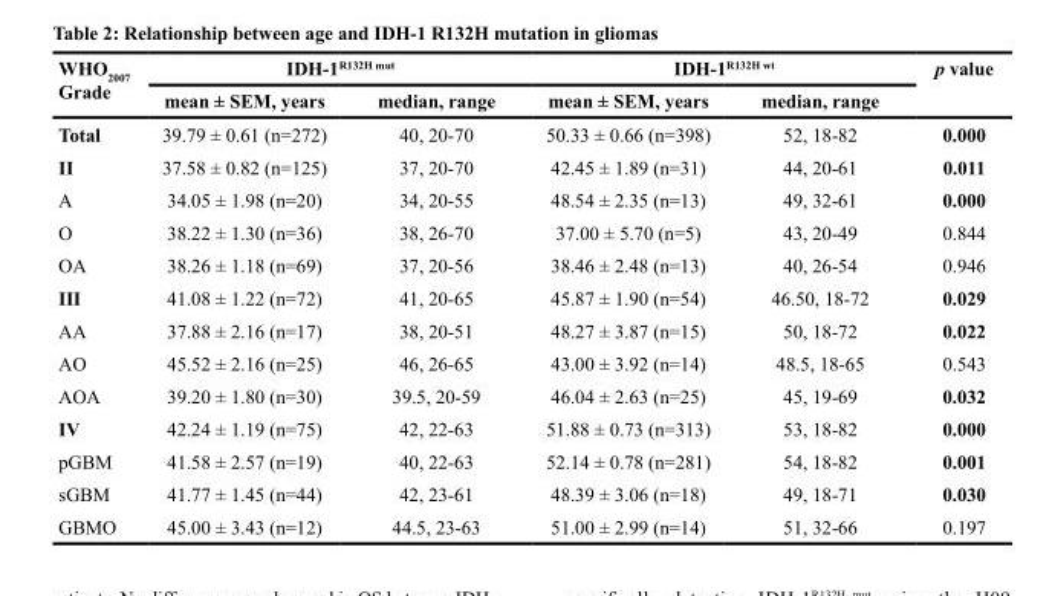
<table><thead><tr><td rowspan="2">WHO<sub>2007</sub> Grade</td><td colspan="2">IDH-1<sup>R132H mut</sup></td><td colspan="2">IDH-1<sup>R132H wt</sup></td><td rowspan="2">p value</td></tr><tr><td>mean ± SEM, years</td><td>median, range</td><td>mean ± SEM, years</td><td>median, range</td></tr></thead><tbody><tr><td>Total</td><td>39.79 ± 0.61 (n=272)</td><td>40, 20-70</td><td>50.33 ± 0.66 (n=398)</td><td>52, 18-82</td><td>0.000</td></tr><tr><td>II</td><td>37.58 ± 0.82 (n=125)</td><td>37, 20-70</td><td>42.45 ± 1.89 (n=31)</td><td>44, 20-61</td><td>0.011</td></tr><tr><td>A</td><td>34.05 ± 1.98 (n=20)</td><td>34, 20-55</td><td>48.54 ± 2.35 (n=13)</td><td>49, 32-61</td><td>0.000</td></tr><tr><td>O</td><td>38.22 ± 1.30 (n=36)</td><td>38, 26-70</td><td>37.00 ± 5.70 (n=5)</td><td>43, 20-49</td><td>0.844</td></tr><tr><td>OA</td><td>38.26 ± 1.18 (n=69)</td><td>37, 20-56</td><td>38.46 ± 2.48 (n=13)</td><td>40, 26-54</td><td>0.946</td></tr><tr><td>III</td><td>41.08 ± 1.22 (n=72)</td><td>41, 20-65</td><td>45.87 ± 1.90 (n=54)</td><td>46.50, 18-72</td><td>0.029</td></tr><tr><td>AA</td><td>37.88 ± 2.16 (n=17)</td><td>38, 20-51</td><td>48.27 ± 3.87 (n=15)</td><td>50, 18-72</td><td>0.022</td></tr><tr><td>AO</td><td>45.52 ± 2.16 (n=25)</td><td>46, 26-65</td><td>43.00 ± 3.92 (n=14)</td><td>48.5, 18-65</td><td>0.543</td></tr><tr><td>AOA</td><td>39.20 ± 1.80 (n=30)</td><td>39.5, 20-59</td><td>46.04 ± 2.63 (n=25)</td><td>45, 19-69</td><td>0.032</td></tr><tr><td>IV</td><td>42.24 ± 1.19 (n=75)</td><td>42, 22-63</td><td>51.88 ± 0.73 (n=313)</td><td>53, 18-82</td><td>0.000</td></tr><tr><td>pGBM</td><td>41.58 ± 2.57 (n=19)</td><td>40, 22-63</td><td>52.14 ± 0.78 (n=281)</td><td>54, 18-82</td><td>0.001</td></tr><tr><td>sGBM</td><td>41.77 ± 1.45 (n=44)</td><td>42, 23-61</td><td>48.39 ± 3.06 (n=18)</td><td>49, 18-71</td><td>0.030</td></tr><tr><td>GBMO</td><td>45.00 ± 3.43 (n=12)</td><td>44.5, 23-63</td><td>51.00 ± 2.99 (n=14)</td><td>51, 32-66</td><td>0.197</td></tr></tbody></table>